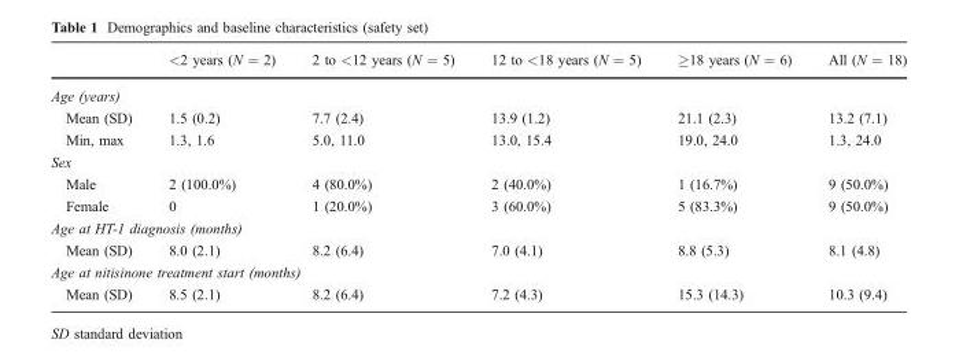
<table><thead><tr><td></td><td>&lt;2 years (N = 2)</td><td>2 to &lt;12 years (N = 5)</td><td>12 to &lt;18 years (N = 5)</td><td>≥18 years (N = 6)</td><td>All (N = 18)</td></tr></thead><tbody><tr><td colspan="6">Age (years)</td></tr><tr><td>Mean (SD)</td><td>1.5 (0.2)</td><td>7.7 (2.4)</td><td>13.9 (1.2)</td><td>21.1 (2.3)</td><td>13.2 (7.1)</td></tr><tr><td>Min, max</td><td>1.3, 1.6</td><td>5.0, 11.0</td><td>13.0, 15.4</td><td>19.0, 24.0</td><td>1.3, 24.0</td></tr><tr><td colspan="6">Sex</td></tr><tr><td>Male</td><td>2 (100.0%)</td><td>4 (80.0%)</td><td>2 (40.0%)</td><td>1 (16.7%)</td><td>9 (50.0%)</td></tr><tr><td>Female</td><td>0</td><td>1 (20.0%)</td><td>3 (60.0%)</td><td>5 (83.3%)</td><td>9 (50.0%)</td></tr><tr><td colspan="6">Age at HT-1 diagnosis (months)</td></tr><tr><td>Mean (SD)</td><td>8.0 (2.1)</td><td>8.2 (6.4)</td><td>7.0 (4.1)</td><td>8.8 (5.3)</td><td>8.1 (4.8)</td></tr><tr><td colspan="6">Age at nitisinone treatment start (months)</td></tr><tr><td>Mean (SD)</td><td>8.5 (2.1)</td><td>8.2 (6.4)</td><td>7.2 (4.3)</td><td>15.3 (14.3)</td><td>10.3 (9.4)</td></tr></tbody></table>